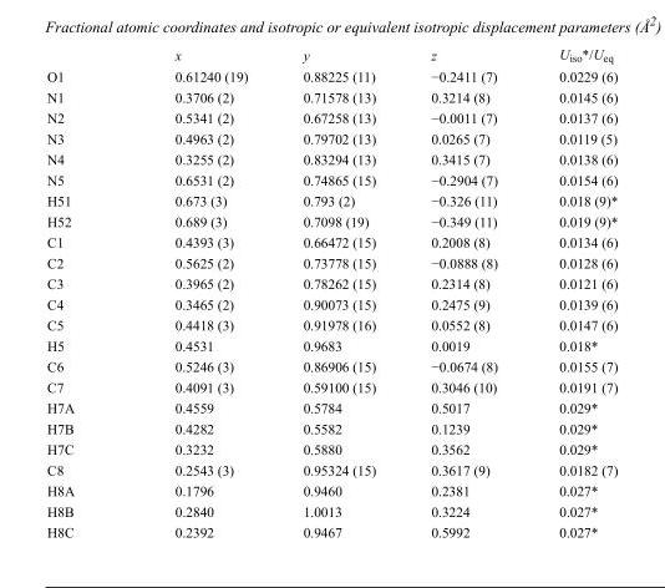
<table><thead><tr><td></td><td>x</td><td>y</td><td>z</td><td>U<sub>iso</sub>*/U<sub>eq</sub></td></tr></thead><tbody><tr><td>O1</td><td>0.61240 (19)</td><td>0.88225 (11)</td><td>−0.2411 (7)</td><td>0.0229 (6)</td></tr><tr><td>N1</td><td>0.3706 (2)</td><td>0.71578 (13)</td><td>0.3214 (8)</td><td>0.0145 (6)</td></tr><tr><td>N2</td><td>0.5341 (2)</td><td>0.67258 (13)</td><td>−0.0011 (7)</td><td>0.0137 (6)</td></tr><tr><td>N3</td><td>0.4963 (2)</td><td>0.79702 (13)</td><td>0.0265 (7)</td><td>0.0119 (5)</td></tr><tr><td>N4</td><td>0.3255 (2)</td><td>0.83294 (13)</td><td>0.3415 (7)</td><td>0.0138 (6)</td></tr><tr><td>N5</td><td>0.6531 (2)</td><td>0.74865 (15)</td><td>−0.2904 (7)</td><td>0.0154 (6)</td></tr><tr><td>H51</td><td>0.673 (3)</td><td>0.793 (2)</td><td>−0.326 (11)</td><td>0.018 (9)*</td></tr><tr><td>H52</td><td>0.689 (3)</td><td>0.7098 (19)</td><td>−0.349 (11)</td><td>0.019 (9)*</td></tr><tr><td>C1</td><td>0.4393 (3)</td><td>0.66472 (15)</td><td>0.2008 (8)</td><td>0.0134 (6)</td></tr><tr><td>C2</td><td>0.5625 (2)</td><td>0.73778 (15)</td><td>−0.0888 (8)</td><td>0.0128 (6)</td></tr><tr><td>C3</td><td>0.3965 (2)</td><td>0.78262 (15)</td><td>0.2314 (8)</td><td>0.0121 (6)</td></tr><tr><td>C4</td><td>0.3465 (2)</td><td>0.90073 (15)</td><td>0.2475 (9)</td><td>0.0139 (6)</td></tr><tr><td>C5</td><td>0.4418 (3)</td><td>0.91978 (16)</td><td>0.0552 (8)</td><td>0.0147 (6)</td></tr><tr><td>H5</td><td>0.4531</td><td>0.9683</td><td>0.0019</td><td>0.018*</td></tr><tr><td>C6</td><td>0.5246 (3)</td><td>0.86906 (15)</td><td>−0.0674 (8)</td><td>0.0155 (7)</td></tr><tr><td>C7</td><td>0.4091 (3)</td><td>0.59100 (15)</td><td>0.3046 (10)</td><td>0.0191 (7)</td></tr><tr><td>H7A</td><td>0.4559</td><td>0.5784</td><td>0.5017</td><td>0.029*</td></tr><tr><td>H7B</td><td>0.4282</td><td>0.5582</td><td>0.1239</td><td>0.029*</td></tr><tr><td>H7C</td><td>0.3232</td><td>0.5880</td><td>0.3562</td><td>0.029*</td></tr><tr><td>C8</td><td>0.2543 (3)</td><td>0.95324 (15)</td><td>0.3617 (9)</td><td>0.0182 (7)</td></tr><tr><td>H8A</td><td>0.1796</td><td>0.9460</td><td>0.2381</td><td>0.027*</td></tr><tr><td>H8B</td><td>0.2840</td><td>1.0013</td><td>0.3224</td><td>0.027*</td></tr><tr><td>H8C</td><td>0.2392</td><td>0.9467</td><td>0.5992</td><td>0.027*</td></tr></tbody></table>